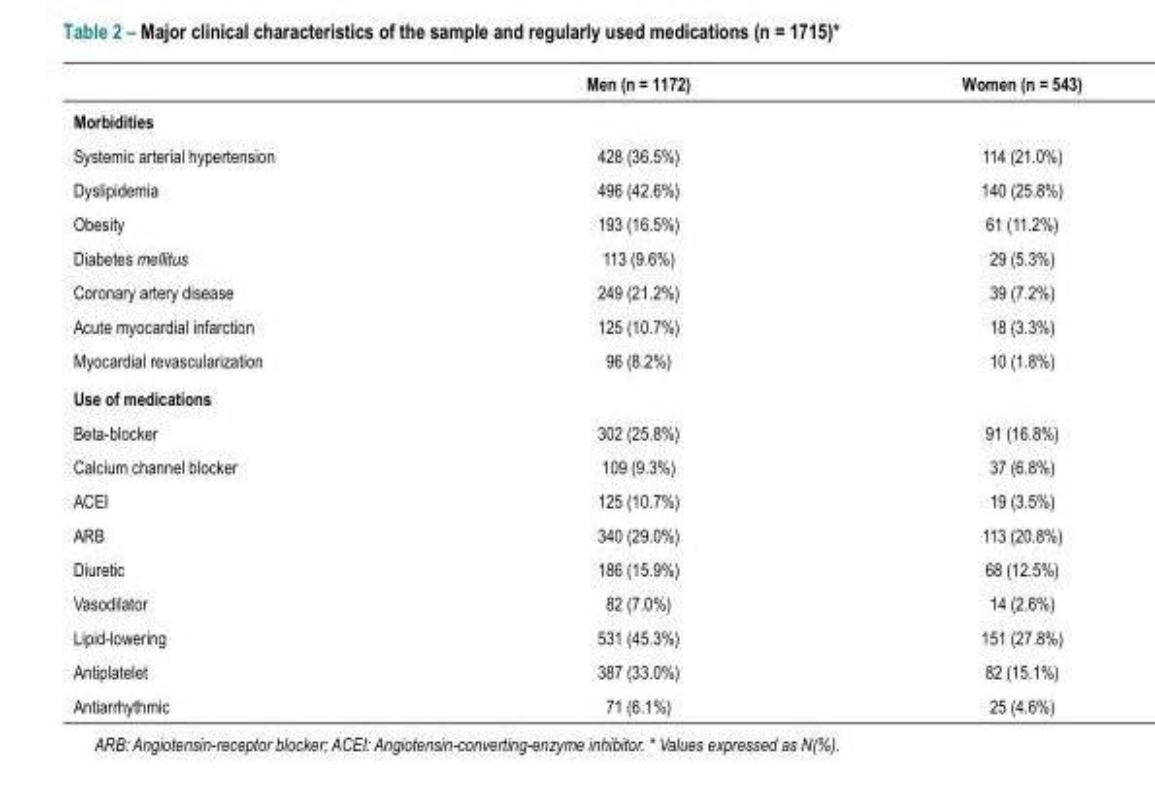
<table><thead><tr><td></td><td>Men (n = 1172)</td><td>Women (n = 543)</td></tr></thead><tbody><tr><td colspan="3">Morbidities</td></tr><tr><td>Systemic arterial hypertension</td><td>428 (36.5%)</td><td>114 (21.0%)</td></tr><tr><td>Dyslipidemia</td><td>496 (42.6%)</td><td>140 (25.8%)</td></tr><tr><td>Obesity</td><td>193 (16.5%)</td><td>61 (11.2%)</td></tr><tr><td>Diabetes mellitus</td><td>113 (9.6%)</td><td>29 (5.3%)</td></tr><tr><td>Coronary artery disease</td><td>249 (21.2%)</td><td>39 (7.2%)</td></tr><tr><td>Acute myocardial infarction</td><td>125 (10.7%)</td><td>18 (3.3%)</td></tr><tr><td>Myocardial revascularization</td><td>96 (8.2%)</td><td>10 (1.8%)</td></tr><tr><td colspan="3">Use of medications</td></tr><tr><td>Beta-blocker</td><td>302 (25.8%)</td><td>91 (16.8%)</td></tr><tr><td>Calcium channel blocker</td><td>109 (9.3%)</td><td>37 (6.8%)</td></tr><tr><td>ACEI</td><td>125 (10.7%)</td><td>19 (3.5%)</td></tr><tr><td>ARB</td><td>340 (29.0%)</td><td>113 (20.8%)</td></tr><tr><td>Diuretic</td><td>186 (15.9%)</td><td>68 (12.5%)</td></tr><tr><td>Vasodilator</td><td>82 (7.0%)</td><td>14 (2.6%)</td></tr><tr><td>Lipid-lowering</td><td>531 (45.3%)</td><td>151 (27.8%)</td></tr><tr><td>Antiplatelet</td><td>387 (33.0%)</td><td>82 (15.1%)</td></tr><tr><td>Antiarrhythmic</td><td>71 (6.1%)</td><td>25 (4.6%)</td></tr></tbody></table>